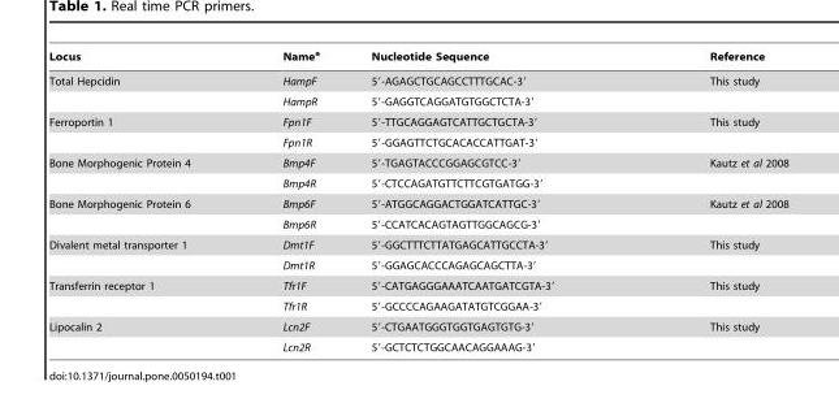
<table><thead><tr><td>Locus</td><td>Name<sup>a</sup></td><td>Nucleotide Sequence</td><td>Reference</td></tr></thead><tbody><tr><td rowspan="2">Total Hepcidin</td><td>HampF</td><td>5′-AGAGCTGCAGCCTTTGCAC-3′</td><td>This study</td></tr><tr><td>HampR</td><td>5′-GAGGTCAGGATGTGGCTCTA-3′</td><td></td></tr><tr><td rowspan="2">Ferroportin 1</td><td>Fpn1F</td><td>5′-TTGCAGGAGTCATTGCTGCTA-3′</td><td>This study</td></tr><tr><td>Fpn1R</td><td>5′-GGAGTTCTGCACACCATTGAT-3′</td><td></td></tr><tr><td rowspan="2">Bone Morphogenic Protein 4</td><td>Bmp4F</td><td>5′-TGAGTACCCGGAGCGTCC-3′</td><td>Kautz et al 2008</td></tr><tr><td>Bmp4R</td><td>5′-CTCCAGATGTTCTTCGTGATGG-3′</td><td></td></tr><tr><td rowspan="2">Bone Morphogenic Protein 6</td><td>Bmp6F</td><td>5′-ATGGCAGGACTGGATCATTGC-3′</td><td>Kautz et al 2008</td></tr><tr><td>Bmp6R</td><td>5′-CCATCACAGTAGTTGGCAGCG-3′</td><td></td></tr><tr><td rowspan="2">Divalent metal transporter 1</td><td>Dmt1F</td><td>5′-GGCTTTCTTATGAGCATTGCCTA-3′</td><td>This study</td></tr><tr><td>Dmt1R</td><td>5′-GGAGCACCCAGAGCAGCTTA-3′</td><td></td></tr><tr><td rowspan="2">Transferrin receptor 1</td><td>Tfr1F</td><td>5′-CATGAGGGAAATCAATGATCGTA-3′</td><td>This study</td></tr><tr><td>Tfr1R</td><td>5′-GCCCCAGAAGATATGTCGGAA-3′</td><td></td></tr><tr><td rowspan="2">Lipocalin 2</td><td>Lcn2F</td><td>5′-CTGAATGGGTGGTGAGTGTG-3′</td><td>This study</td></tr><tr><td>Lcn2R</td><td>5′-GCTCTCTGGCAACAGGAAAG-3′</td><td></td></tr></tbody></table>